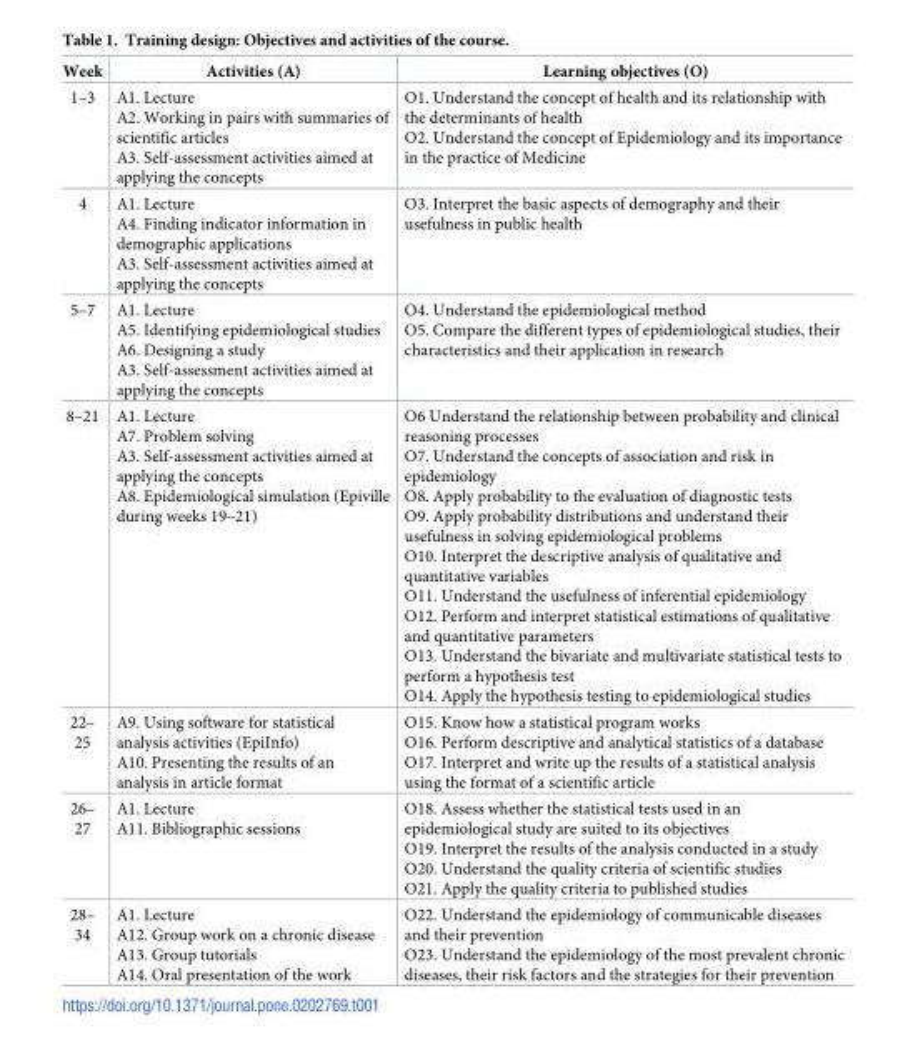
<table><thead><tr><td>Week</td><td>Activities (A)</td><td>Learning objectives (O)</td></tr></thead><tbody><tr><td>1–3</td><td>A1. Lecture A2. Working in pairs with summaries of scientific articles A3. Self-assessment activities aimed at applying the concepts</td><td>O1. Understand the concept of health and its relationship with the determinants of health O2. Understand the concept of Epidemiology and its importance in the practice of Medicine</td></tr><tr><td>4</td><td>A1. Lecture A4. Finding indicator information in demographic applications A3. Self-assessment activities aimed at applying the concepts</td><td>O3. Interpret the basic aspects of demography and their usefulness in public health</td></tr><tr><td>5–7</td><td>A1. Lecture A5. Identifying epidemiological studies A6. Designing a study A3. Self-assessment activities aimed at applying the concepts</td><td>O4. Understand the epidemiological method O5. Compare the different types of epidemiological studies, their characteristics and their application in research</td></tr><tr><td>8–21</td><td>A1. Lecture A7. Problem solving A3. Self-assessment activities aimed at applying the concepts A8. Epidemiological simulation (Epiville during weeks 19–21)</td><td>O6 Understand the relationship between probability and clinical reasoning processes O7. Understand the concepts of association and risk in epidemiology O8. Apply probability to the evaluation of diagnostic tests O9. Apply probability distributions and understand their usefulness in solving epidemiological problems O10. Interpret the descriptive analysis of qualitative and quantitative variables O11. Understand the usefulness of inferential epidemiology O12. Perform and interpret statistical estimations of qualitative and quantitative parameters O13. Understand the bivariate and multivariate statistical tests to perform a hypothesis test O14. Apply the hypothesis testing to epidemiological studies</td></tr><tr><td>22– 25</td><td>A9. Using software for statistical analysis activities (EpiInfo) A10. Presenting the results of an analysis in article format</td><td>O15. Know how a statistical program works O16. Perform descriptive and analytical statistics of a database O17. Interpret and write up the results of a statistical analysis using the format of a scientific article</td></tr><tr><td>26– 27</td><td>A1. Lecture A11. Bibliographic sessions</td><td>O18. Assess whether the statistical tests used in an epidemiological study are suited to its objectives O19. Interpret the results of the analysis conducted in a study O20. Understand the quality criteria of scientific studies O21. Apply the quality criteria to published studies</td></tr><tr><td>28– 34</td><td>A1. Lecture A12. Group work on a chronic disease A13. Group tutorials A14. Oral presentation of the work</td><td>O22. Understand the epidemiology of communicable diseases and their prevention O23. Understand the epidemiology of the most prevalent chronic diseases, their risk factors and the strategies for their prevention</td></tr></tbody></table>